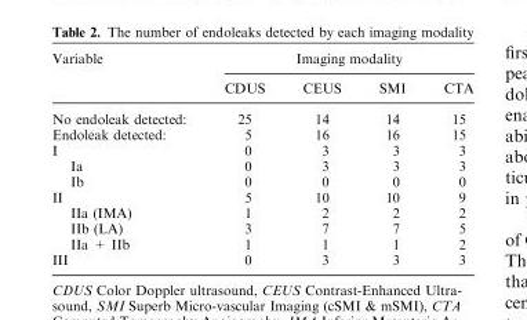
<table><thead><tr><td rowspan="2">Variable</td><td colspan="4">Imaging modality</td></tr><tr><td>CDUS</td><td>CEUS</td><td>SMI</td><td>CTA</td></tr></thead><tbody><tr><td>No endoleak detected:</td><td>25</td><td>14</td><td>14</td><td>15</td></tr><tr><td>Endoleak detected:</td><td>5</td><td>16</td><td>16</td><td>15</td></tr><tr><td>I</td><td>0</td><td>3</td><td>3</td><td>3</td></tr><tr><td>Ia</td><td>0</td><td>3</td><td>3</td><td>3</td></tr><tr><td>Ib</td><td>0</td><td>0</td><td>0</td><td>0</td></tr><tr><td>II</td><td>5</td><td>10</td><td>10</td><td>9</td></tr><tr><td>IIa (IMA)</td><td>1</td><td>2</td><td>2</td><td>2</td></tr><tr><td>IIb (LA)</td><td>3</td><td>7</td><td>7</td><td>5</td></tr><tr><td>IIa + IIb</td><td>1</td><td>1</td><td>1</td><td>2</td></tr><tr><td>III</td><td>0</td><td>3</td><td>3</td><td>3</td></tr></tbody></table>